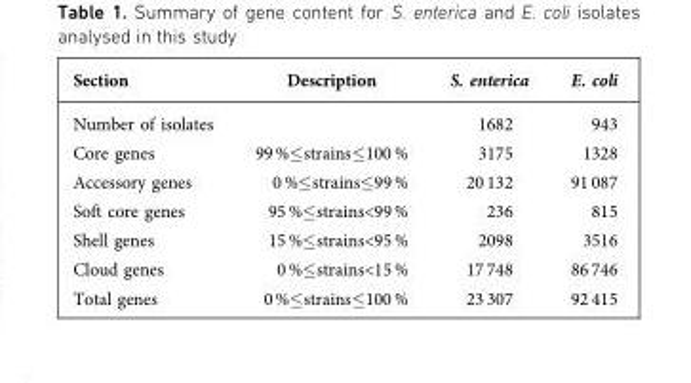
<table><thead><tr><td>Section</td><td>Description</td><td>S. enterica</td><td>E. coli</td></tr></thead><tbody><tr><td>Number of isolates</td><td></td><td>1682</td><td>943</td></tr><tr><td>Core genes</td><td>99 %≤strains≤100 %</td><td>3175</td><td>1328</td></tr><tr><td>Accessory genes</td><td>0 %≤strains≤99 %</td><td>20 132</td><td>91 087</td></tr><tr><td>Soft core genes</td><td>95 %≤strains&lt;99 %</td><td>236</td><td>815</td></tr><tr><td>Shell genes</td><td>15 %≤strains&lt;95 %</td><td>2098</td><td>3516</td></tr><tr><td>Cloud genes</td><td>0 %≤strains&lt;15 %</td><td>17 748</td><td>86 746</td></tr><tr><td>Total genes</td><td>0 %≤strains≤100 %</td><td>23 307</td><td>92 415</td></tr></tbody></table>